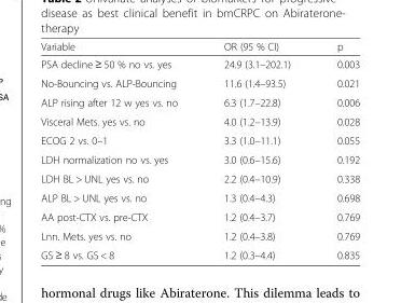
<table><thead><tr><td>Variable</td><td>OR (95 % CI)</td><td>p</td></tr></thead><tbody><tr><td>PSA decline ≥ 50 % no vs. yes</td><td>24.9 (3.1–202.1)</td><td>0.003</td></tr><tr><td>No-Bouncing vs. ALP-Bouncing</td><td>11.6 (1.4–93.5)</td><td>0.021</td></tr><tr><td>ALP rising after 12 w yes vs. no</td><td>6.3 (1.7–22.8)</td><td>0.006</td></tr><tr><td>Visceral Mets. yes vs. no</td><td>4.0 (1.2–13.9)</td><td>0.028</td></tr><tr><td>ECOG 2 vs. 0–1</td><td>3.3 (1.0–11.1)</td><td>0.055</td></tr><tr><td>LDH normalization no vs. yes</td><td>3.0 (0.6–15.6)</td><td>0.192</td></tr><tr><td>LDH BL &gt; UNL yes vs. no</td><td>2.2 (0.4–10.9)</td><td>0.338</td></tr><tr><td>ALP BL &gt; UNL yes vs. no</td><td>1.3 (0.4–4.3)</td><td>0.698</td></tr><tr><td>AA post-CTX vs. pre-CTX</td><td>1.2 (0.4–3.7)</td><td>0.769</td></tr><tr><td>Lnn. Mets. yes vs. no</td><td>1.2 (0.4–3.8)</td><td>0.769</td></tr><tr><td>GS ≥ 8 vs. GS &lt; 8</td><td>1.2 (0.3–4.4)</td><td>0.835</td></tr></tbody></table>